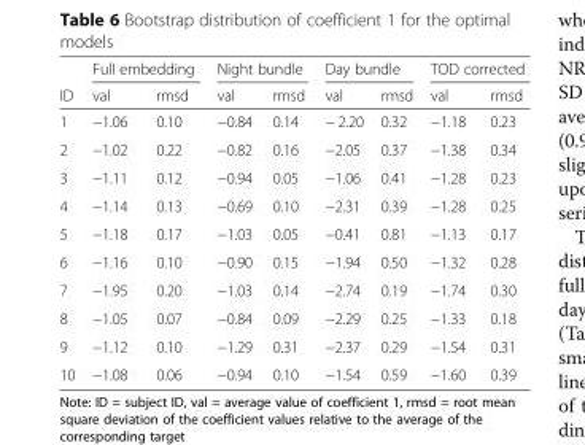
<table><thead><tr><td rowspan="2">ID</td><td colspan="2">Full embedding</td><td colspan="2">Night bundle</td><td colspan="2">Day bundle</td><td colspan="2">TOD corrected</td></tr><tr><td>val</td><td>rmsd</td><td>val</td><td>rmsd</td><td>val</td><td>rmsd</td><td>val</td><td>rmsd</td></tr></thead><tbody><tr><td>1</td><td>−1.06</td><td>0.10</td><td>−0.84</td><td>0.14</td><td>− 2.20</td><td>0.32</td><td>−1.18</td><td>0.23</td></tr><tr><td>2</td><td>−1.02</td><td>0.22</td><td>−0.82</td><td>0.16</td><td>−2.05</td><td>0.37</td><td>−1.38</td><td>0.34</td></tr><tr><td>3</td><td>−1.11</td><td>0.12</td><td>−0.94</td><td>0.05</td><td>−1.06</td><td>0.41</td><td>−1.28</td><td>0.23</td></tr><tr><td>4</td><td>−1.14</td><td>0.13</td><td>−0.69</td><td>0.10</td><td>−2.31</td><td>0.39</td><td>−1.28</td><td>0.25</td></tr><tr><td>5</td><td>−1.18</td><td>0.17</td><td>−1.03</td><td>0.05</td><td>−0.41</td><td>0.81</td><td>−1.13</td><td>0.17</td></tr><tr><td>6</td><td>−1.16</td><td>0.10</td><td>−0.90</td><td>0.15</td><td>−1.94</td><td>0.50</td><td>−1.32</td><td>0.28</td></tr><tr><td>7</td><td>−1.95</td><td>0.20</td><td>−1.03</td><td>0.14</td><td>−2.74</td><td>0.19</td><td>−1.74</td><td>0.30</td></tr><tr><td>8</td><td>−1.05</td><td>0.07</td><td>−0.84</td><td>0.09</td><td>−2.29</td><td>0.25</td><td>−1.33</td><td>0.18</td></tr><tr><td>9</td><td>−1.12</td><td>0.10</td><td>−1.29</td><td>0.31</td><td>−2.37</td><td>0.29</td><td>−1.54</td><td>0.31</td></tr><tr><td>10</td><td>−1.08</td><td>0.06</td><td>−0.94</td><td>0.10</td><td>−1.54</td><td>0.59</td><td>−1.60</td><td>0.39</td></tr></tbody></table>